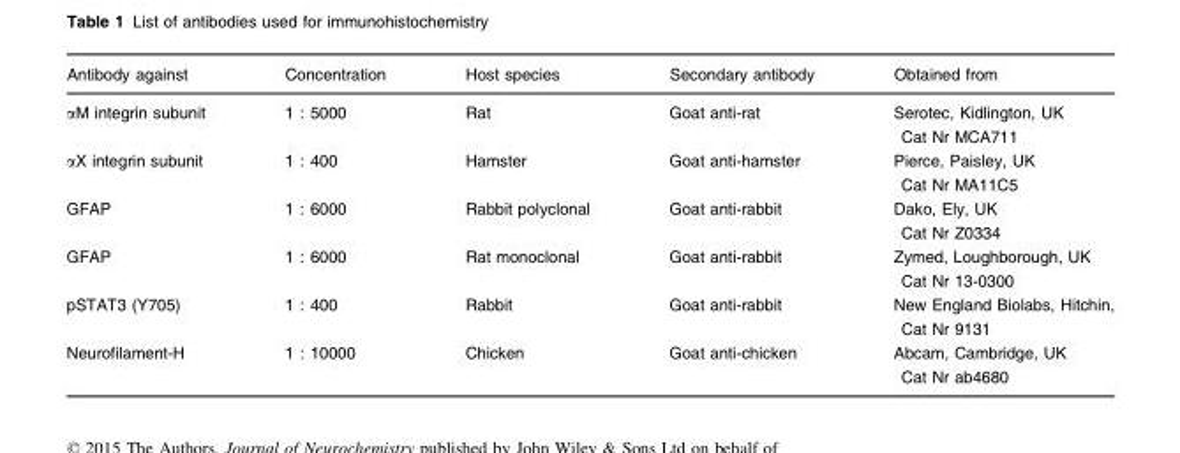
<table><thead><tr><td>Antibody against</td><td>Concentration</td><td>Host species</td><td>Secondary antibody</td><td>Obtained from</td></tr></thead><tbody><tr><td>αM integrin subunit</td><td>1 : 5000</td><td>Rat</td><td>Goat anti-rat</td><td>Serotec, Kidlington, UK Cat Nr MCA711</td></tr><tr><td>αX integrin subunit</td><td>1 : 400</td><td>Hamster</td><td>Goat anti-hamster</td><td>Pierce, Paisley, UK Cat Nr MA11C5</td></tr><tr><td>GFAP</td><td>1 : 6000</td><td>Rabbit polyclonal</td><td>Goat anti-rabbit</td><td>Dako, Ely, UK Cat Nr Z0334</td></tr><tr><td>GFAP</td><td>1 : 6000</td><td>Rat monoclonal</td><td>Goat anti-rabbit</td><td>Zymed, Loughborough, UK Cat Nr 13-0300</td></tr><tr><td>pSTAT3 (Y705)</td><td>1 : 400</td><td>Rabbit</td><td>Goat anti-rabbit</td><td>New England Biolabs, Hitchin, Cat Nr 9131</td></tr><tr><td>Neurofilament-H</td><td>1 : 10000</td><td>Chicken</td><td>Goat anti-chicken</td><td>Abcam, Cambridge, UK Cat Nr ab4680</td></tr></tbody></table>